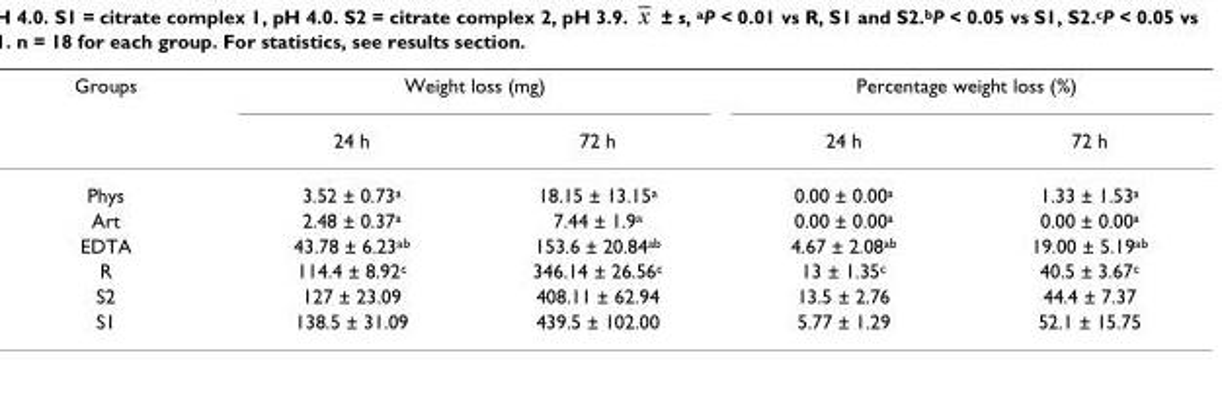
<table><thead><tr><td rowspan="2">Groups</td><td colspan="2">Weight loss (mg)</td><td colspan="2">Percentage weight loss (%)</td></tr><tr><td>24 h</td><td>72 h</td><td>24 h</td><td>72 h</td></tr></thead><tbody><tr><td>Phys</td><td>3.52 ± 0.73<sup>a</sup></td><td>18.15 ± 13.15<sup>a</sup></td><td>0.00 ± 0.00<sup>a</sup></td><td>1.33 ± 1.53<sup>a</sup></td></tr><tr><td>Art</td><td>2.48 ± 0.37<sup>a</sup></td><td>7.44 ± 1.9<sup>a</sup></td><td>0.00 ± 0.00<sup>a</sup></td><td>0.00 ± 0.00<sup>a</sup></td></tr><tr><td>EDTA</td><td>43.78 ± 6.23<sup>ab</sup></td><td>153.6 ± 20.84<sup>ab</sup></td><td>4.67 ± 2.08<sup>ab</sup></td><td>19.00 ± 5.19<sup>ab</sup></td></tr><tr><td>R</td><td>114.4 ± 8.92<sup>c</sup></td><td>346.14 ± 26.56<sup>c</sup></td><td>13 ± 1.35<sup>c</sup></td><td>40.5 ± 3.67<sup>c</sup></td></tr><tr><td>S2</td><td>127 ± 23.09</td><td>408.11 ± 62.94</td><td>13.5 ± 2.76</td><td>44.4 ± 7.37</td></tr><tr><td>S1</td><td>138.5 ± 31.09</td><td>439.5 ± 102.00</td><td>5.77 ± 1.29</td><td>52.1 ± 15.75</td></tr></tbody></table>